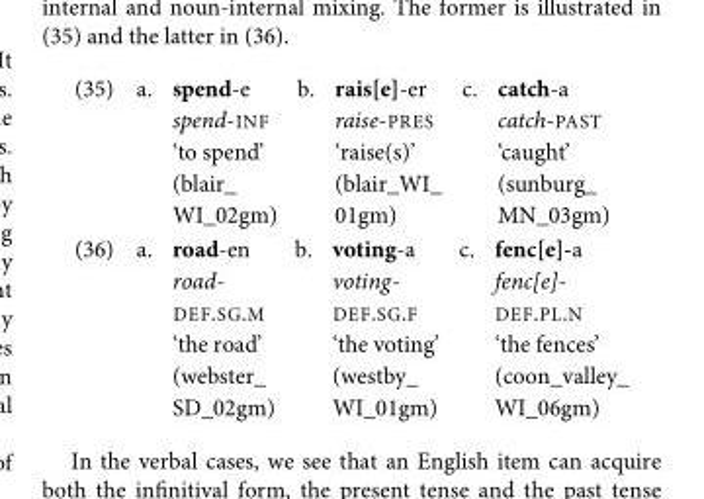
<table><tbody><tr><td rowspan="5">(35)</td><td>a.</td><td>spend-e</td><td>b.</td><td>rais[e]-er</td><td>c.</td><td>catch-a</td></tr><tr><td></td><td>spend-INF</td><td></td><td>raise-PRES</td><td></td><td>catch-PAST</td></tr><tr><td></td><td>‘to spend’</td><td></td><td>‘raise(s)’</td><td></td><td>‘caught’</td></tr><tr><td></td><td>(blair_</td><td></td><td>(blair_WI_</td><td></td><td>(sunburg_</td></tr><tr><td></td><td>WI_02gm)</td><td></td><td>01gm)</td><td></td><td>MN_03gm)</td></tr><tr><td rowspan="6">(36)</td><td>a.</td><td>road-en</td><td>b.</td><td>voting-a</td><td>c.</td><td>fenc[e]-a</td></tr><tr><td></td><td>road-</td><td></td><td>voting-</td><td></td><td>fenc[e]-</td></tr><tr><td></td><td>DEF.SG.M</td><td></td><td>DEF.SG.F</td><td></td><td>DEF.PL.N</td></tr><tr><td></td><td>‘the road’</td><td></td><td>‘the voting’</td><td></td><td>‘the fences’</td></tr><tr><td></td><td>(webster_</td><td></td><td>(westby_</td><td></td><td>(coon_valley_</td></tr><tr><td></td><td>SD_02gm)</td><td></td><td>WI_01gm)</td><td></td><td>WI_06gm)</td></tr></tbody></table>